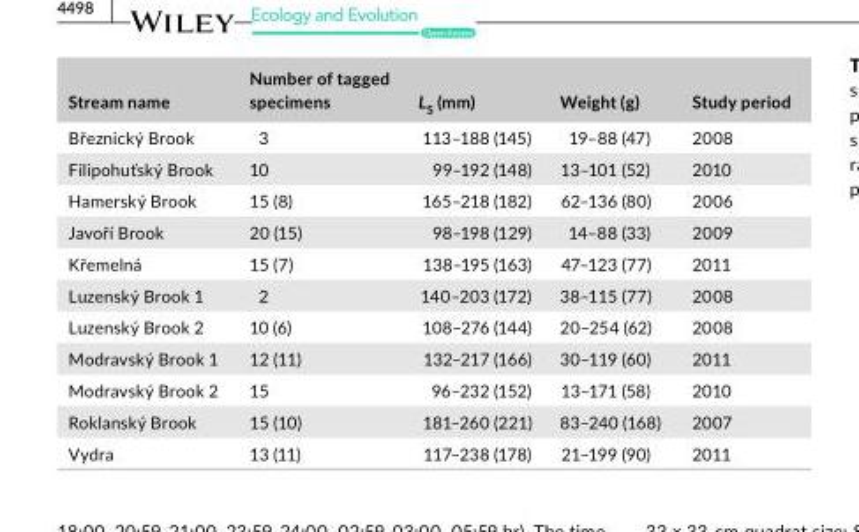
<table><thead><tr><td>Stream name</td><td>Number of tagged specimens</td><td>L<sub>S</sub> (mm)</td><td>Weight (g)</td><td>Study period</td></tr></thead><tbody><tr><td>Březnický Brook</td><td>3</td><td>113–188 (145)</td><td>19–88 (47)</td><td>2008</td></tr><tr><td>Filipohuťský Brook</td><td>10</td><td>99–192 (148)</td><td>13–101 (52)</td><td>2010</td></tr><tr><td>Hamerský Brook</td><td>15 (8)</td><td>165–218 (182)</td><td>62–136 (80)</td><td>2006</td></tr><tr><td>Javoří Brook</td><td>20 (15)</td><td>98–198 (129)</td><td>14–88 (33)</td><td>2009</td></tr><tr><td>Křemelná</td><td>15 (7)</td><td>138–195 (163)</td><td>47–123 (77)</td><td>2011</td></tr><tr><td>Luzenský Brook 1</td><td>2</td><td>140–203 (172)</td><td>38–115 (77)</td><td>2008</td></tr><tr><td>Luzenský Brook 2</td><td>10 (6)</td><td>108–276 (144)</td><td>20–254 (62)</td><td>2008</td></tr><tr><td>Modravský Brook 1</td><td>12 (11)</td><td>132–217 (166)</td><td>30–119 (60)</td><td>2011</td></tr><tr><td>Modravský Brook 2</td><td>15</td><td>96–232 (152)</td><td>13–171 (58)</td><td>2010</td></tr><tr><td>Roklanský Brook</td><td>15 (10)</td><td>181–260 (221)</td><td>83–240 (168)</td><td>2007</td></tr><tr><td>Vydra</td><td>13 (11)</td><td>117–238 (178)</td><td>21–199 (90)</td><td>2011</td></tr></tbody></table>